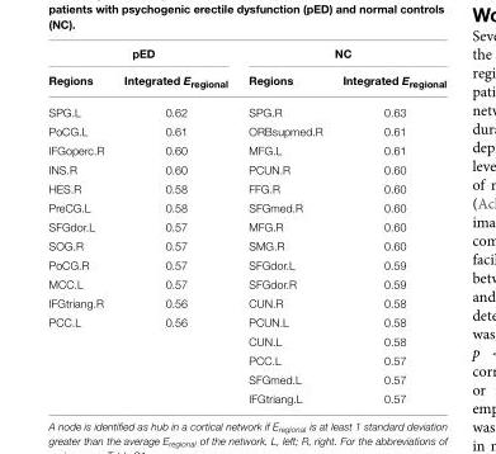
<table><thead><tr><td colspan="2">pED</td><td colspan="2">NC</td></tr><tr><td>Regions</td><td>Integrated E<sub>regional</sub></td><td>Regions</td><td>Integrated E<sub>regional</sub></td></tr></thead><tbody><tr><td>SPG.L</td><td>0.62</td><td>SPG.R</td><td>0.63</td></tr><tr><td>PoCG.L</td><td>0.61</td><td>ORBsupmed.R</td><td>0.61</td></tr><tr><td>IFGoperc.R</td><td>0.60</td><td>MFG.L</td><td>0.61</td></tr><tr><td>INS.R</td><td>0.60</td><td>PCUN.R</td><td>0.60</td></tr><tr><td>HES.R</td><td>0.58</td><td>FFG.R</td><td>0.60</td></tr><tr><td>PreCG.L</td><td>0.58</td><td>SFGmed.R</td><td>0.60</td></tr><tr><td>SFGdor.L</td><td>0.57</td><td>MFG.R</td><td>0.60</td></tr><tr><td>SOG.R</td><td>0.57</td><td>SMG.R</td><td>0.60</td></tr><tr><td>PoCG.R</td><td>0.57</td><td>SFGdor.L</td><td>0.59</td></tr><tr><td>MCC.L</td><td>0.57</td><td>SFGdor.R</td><td>0.59</td></tr><tr><td>IFGtriang.R</td><td>0.56</td><td>CUN.R</td><td>0.58</td></tr><tr><td rowspan="5">PCC.L</td><td>0.56</td><td>PCUN.L</td><td>0.58</td></tr><tr><td></td><td>CUN.L</td><td>0.58</td></tr><tr><td></td><td>PCC.L</td><td>0.57</td></tr><tr><td></td><td>SFGmed.L</td><td>0.57</td></tr><tr><td></td><td>IFGtriang.L</td><td>0.57</td></tr></tbody></table>